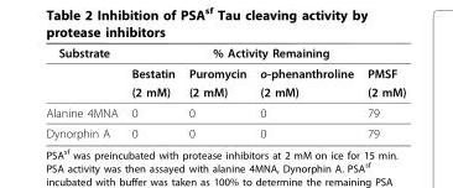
<table><thead><tr><td rowspan="2">Substrate</td><td colspan="4">% Activity Remaining</td></tr><tr><td>Bestatin</td><td>Puromycin</td><td>o-phenanthroline</td><td>PMSF</td></tr></thead><tbody><tr><td></td><td>(2 mM)</td><td>(2 mM)</td><td>(2 mM)</td><td>(2 mM)</td></tr><tr><td>Alanine 4MNA</td><td>0</td><td>0</td><td>0</td><td>79</td></tr><tr><td>Dynorphin A</td><td>0</td><td>0</td><td>0</td><td>79</td></tr></tbody></table>